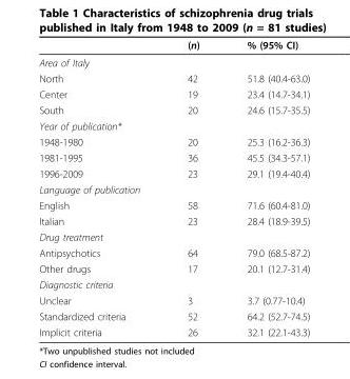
<table><thead><tr><td></td><td>(n)</td><td>% (95% CI)</td></tr></thead><tbody><tr><td colspan="3">Area of Italy</td></tr><tr><td>North</td><td>42</td><td>51.8 (40.4-63.0)</td></tr><tr><td>Center</td><td>19</td><td>23.4 (14.7-34.1)</td></tr><tr><td>South</td><td>20</td><td>24.6 (15.7-35.5)</td></tr><tr><td colspan="3">Year of publication*</td></tr><tr><td>1948-1980</td><td>20</td><td>25.3 (16.2-36.3)</td></tr><tr><td>1981-1995</td><td>36</td><td>45.5 (34.3-57.1)</td></tr><tr><td>1996-2009</td><td>23</td><td>29.1 (19.4-40.4)</td></tr><tr><td colspan="3">Language of publication</td></tr><tr><td>English</td><td>58</td><td>71.6 (60.4-81.0)</td></tr><tr><td>Italian</td><td>23</td><td>28.4 (18.9-39.5)</td></tr><tr><td colspan="3">Drug treatment</td></tr><tr><td>Antipsychotics</td><td>64</td><td>79.0 (68.5-87.2)</td></tr><tr><td>Other drugs</td><td>17</td><td>20.1 (12.7-31.4)</td></tr><tr><td colspan="3">Diagnostic criteria</td></tr><tr><td>Unclear</td><td>3</td><td>3.7 (0.77-10.4)</td></tr><tr><td>Standardized criteria</td><td>52</td><td>64.2 (52.7-74.5)</td></tr><tr><td>Implicit criteria</td><td>26</td><td>32.1 (22.1-43.3)</td></tr></tbody></table>